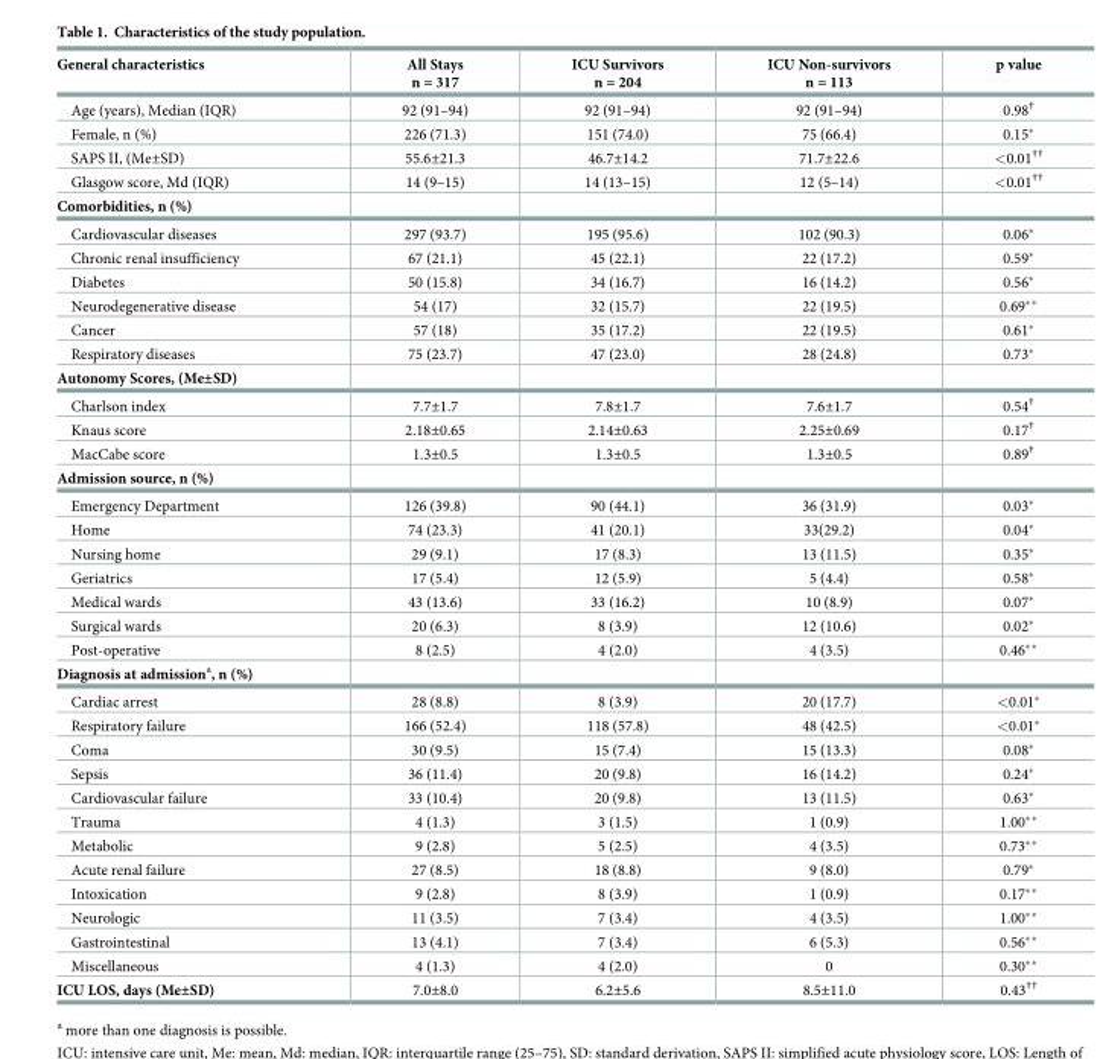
<table><thead><tr><td>General characteristics</td><td>All Stays n = 317</td><td>ICU Survivors n = 204</td><td>ICU Non-survivors n = 113</td><td>p value</td></tr></thead><tbody><tr><td>Age (years), Median (IQR)</td><td>92 (91–94)</td><td>92 (91–94)</td><td>92 (91–94)</td><td>0.98<sup>†</sup></td></tr><tr><td>Female, n (%)</td><td>226 (71.3)</td><td>151 (74.0)</td><td>75 (66.4)</td><td>0.15*</td></tr><tr><td>SAPS II, (Me±SD)</td><td>55.6±21.3</td><td>46.7±14.2</td><td>71.7±22.6</td><td>&lt;0.01<sup>††</sup></td></tr><tr><td>Glasgow score, Md (IQR)</td><td>14 (9–15)</td><td>14 (13–15)</td><td>12 (5–14)</td><td>&lt;0.01<sup>††</sup></td></tr><tr><td colspan="5">Comorbidities, n (%)</td></tr><tr><td>Cardiovascular diseases</td><td>297 (93.7)</td><td>195 (95.6)</td><td>102 (90.3)</td><td>0.06*</td></tr><tr><td>Chronic renal insufficiency</td><td>67 (21.1)</td><td>45 (22.1)</td><td>22 (17.2)</td><td>0.59*</td></tr><tr><td>Diabetes</td><td>50 (15.8)</td><td>34 (16.7)</td><td>16 (14.2)</td><td>0.56*</td></tr><tr><td>Neurodegenerative disease</td><td>54 (17)</td><td>32 (15.7)</td><td>22 (19.5)</td><td>0.69**</td></tr><tr><td>Cancer</td><td>57 (18)</td><td>35 (17.2)</td><td>22 (19.5)</td><td>0.61*</td></tr><tr><td>Respiratory diseases</td><td>75 (23.7)</td><td>47 (23.0)</td><td>28 (24.8)</td><td>0.73*</td></tr><tr><td colspan="5">Autonomy Scores, (Me±SD)</td></tr><tr><td>Charlson index</td><td>7.7±1.7</td><td>7.8±1.7</td><td>7.6±1.7</td><td>0.54<sup>†</sup></td></tr><tr><td>Knaus score</td><td>2.18±0.65</td><td>2.14±0.63</td><td>2.25±0.69</td><td>0.17<sup>†</sup></td></tr><tr><td>MacCabe score</td><td>1.3±0.5</td><td>1.3±0.5</td><td>1.3±0.5</td><td>0.89<sup>†</sup></td></tr><tr><td colspan="5">Admission source, n (%)</td></tr><tr><td>Emergency Department</td><td>126 (39.8)</td><td>90 (44.1)</td><td>36 (31.9)</td><td>0.03*</td></tr><tr><td>Home</td><td>74 (23.3)</td><td>41 (20.1)</td><td>33(29.2)</td><td>0.04*</td></tr><tr><td>Nursing home</td><td>29 (9.1)</td><td>17 (8.3)</td><td>13 (11.5)</td><td>0.35*</td></tr><tr><td>Geriatrics</td><td>17 (5.4)</td><td>12 (5.9)</td><td>5 (4.4)</td><td>0.58*</td></tr><tr><td>Medical wards</td><td>43 (13.6)</td><td>33 (16.2)</td><td>10 (8.9)</td><td>0.07*</td></tr><tr><td>Surgical wards</td><td>20 (6.3)</td><td>8 (3.9)</td><td>12 (10.6)</td><td>0.02*</td></tr><tr><td>Post-operative</td><td>8 (2.5)</td><td>4 (2.0)</td><td>4 (3.5)</td><td>0.46**</td></tr><tr><td colspan="5">Diagnosis at admission<sup>a</sup>, n (%)</td></tr><tr><td>Cardiac arrest</td><td>28 (8.8)</td><td>8 (3.9)</td><td>20 (17.7)</td><td>&lt;0.01*</td></tr><tr><td>Respiratory failure</td><td>166 (52.4)</td><td>118 (57.8)</td><td>48 (42.5)</td><td>&lt;0.01*</td></tr><tr><td>Coma</td><td>30 (9.5)</td><td>15 (7.4)</td><td>15 (13.3)</td><td>0.08*</td></tr><tr><td>Sepsis</td><td>36 (11.4)</td><td>20 (9.8)</td><td>16 (14.2)</td><td>0.24*</td></tr><tr><td>Cardiovascular failure</td><td>33 (10.4)</td><td>20 (9.8)</td><td>13 (11.5)</td><td>0.63*</td></tr><tr><td>Trauma</td><td>4 (1.3)</td><td>3 (1.5)</td><td>1 (0.9)</td><td>1.00**</td></tr><tr><td>Metabolic</td><td>9 (2.8)</td><td>5 (2.5)</td><td>4 (3.5)</td><td>0.73**</td></tr><tr><td>Acute renal failure</td><td>27 (8.5)</td><td>18 (8.8)</td><td>9 (8.0)</td><td>0.79*</td></tr><tr><td>Intoxication</td><td>9 (2.8)</td><td>8 (3.9)</td><td>1 (0.9)</td><td>0.17**</td></tr><tr><td>Neurologic</td><td>11 (3.5)</td><td>7 (3.4)</td><td>4 (3.5)</td><td>1.00**</td></tr><tr><td>Gastrointestinal</td><td>13 (4.1)</td><td>7 (3.4)</td><td>6 (5.3)</td><td>0.56**</td></tr><tr><td>Miscellaneous</td><td>4 (1.3)</td><td>4 (2.0)</td><td>0</td><td>0.30**</td></tr><tr><td>ICU LOS, days (Me±SD)</td><td>7.0±8.0</td><td>6.2±5.6</td><td>8.5±11.0</td><td>0.43<sup>††</sup></td></tr></tbody></table>